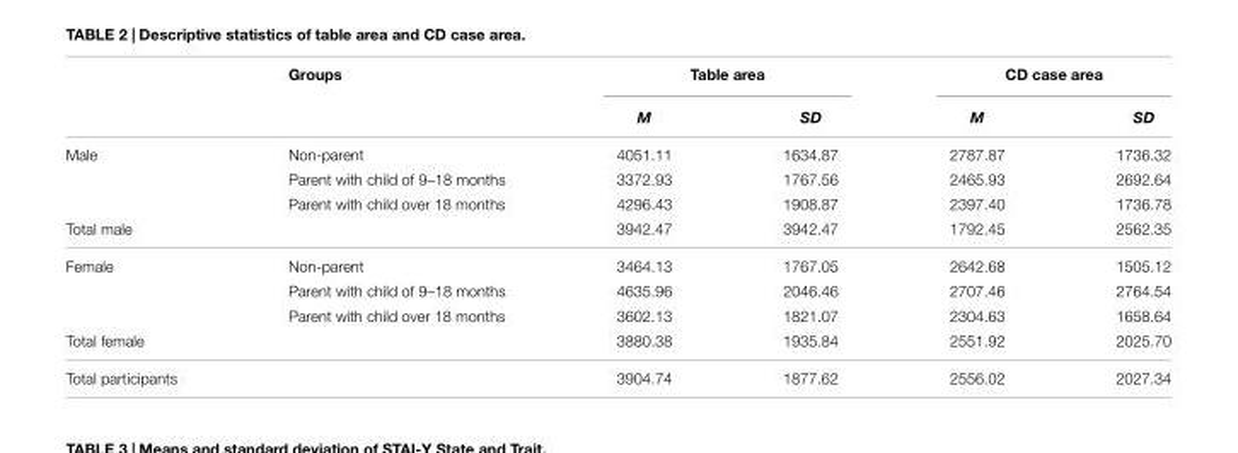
<table><thead><tr><td rowspan="2"></td><td rowspan="2">Groups</td><td colspan="2">Table area</td><td colspan="2">CD case area</td></tr><tr><td>M</td><td>SD</td><td>M</td><td>SD</td></tr></thead><tbody><tr><td rowspan="3">Male</td><td>Non-parent</td><td>4051.11</td><td>1634.87</td><td>2787.87</td><td>1736.32</td></tr><tr><td>Parent with child of 9–18 months</td><td>3372.93</td><td>1767.56</td><td>2465.93</td><td>2692.64</td></tr><tr><td>Parent with child over 18 months</td><td>4296.43</td><td>1908.87</td><td>2397.40</td><td>1736.78</td></tr><tr><td>Total male</td><td></td><td>3942.47</td><td>3942.47</td><td>1792.45</td><td>2562.35</td></tr><tr><td rowspan="3">Female</td><td>Non-parent</td><td>3464.13</td><td>1767.05</td><td>2642.68</td><td>1505.12</td></tr><tr><td>Parent with child of 9–18 months</td><td>4635.96</td><td>2046.46</td><td>2707.46</td><td>2764.54</td></tr><tr><td>Parent with child over 18 months</td><td>3602.13</td><td>1821.07</td><td>2304.63</td><td>1658.64</td></tr><tr><td>Total female</td><td></td><td>3880.38</td><td>1935.84</td><td>2551.92</td><td>2025.70</td></tr><tr><td>Total participants</td><td></td><td>3904.74</td><td>1877.62</td><td>2556.02</td><td>2027.34</td></tr></tbody></table>